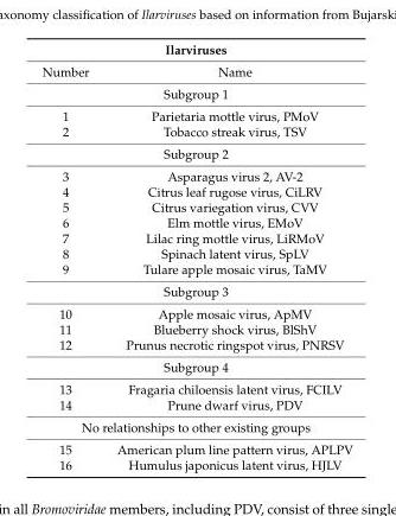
<table><thead><tr><td colspan="2">Ilarviruses</td></tr><tr><td>Number</td><td>Name</td></tr></thead><tbody><tr><td colspan="2">Subgroup 1</td></tr><tr><td>1</td><td>Parietaria mottle virus, PMoV</td></tr><tr><td>2</td><td>Tobacco streak virus, TSV</td></tr><tr><td colspan="2">Subgroup 2</td></tr><tr><td>3</td><td>Asparagus virus 2, AV-2</td></tr><tr><td>4</td><td>Citrus leaf rugose virus, CiLRV</td></tr><tr><td>5</td><td>Citrus variegation virus, CVV</td></tr><tr><td>6</td><td>Elm mottle virus, EMoV</td></tr><tr><td>7</td><td>Lilac ring mottle virus, LiRMoV</td></tr><tr><td>8</td><td>Spinach latent virus, SpLV</td></tr><tr><td>9</td><td>Tulare apple mosaic virus, TaMV</td></tr><tr><td colspan="2">Subgroup 3</td></tr><tr><td>10</td><td>Apple mosaic virus, ApMV</td></tr><tr><td>11</td><td>Blueberry shock virus, BlShV</td></tr><tr><td>12</td><td>Prunus necrotic ringspot virus, PNRSV</td></tr><tr><td colspan="2">Subgroup 4</td></tr><tr><td>13</td><td>Fragaria chiloensis latent virus, FCILV</td></tr><tr><td>14</td><td>Prune dwarf virus, PDV</td></tr><tr><td colspan="2">No relationships to other existing groups</td></tr><tr><td>15</td><td>American plum line pattern virus, APLPV</td></tr><tr><td>16</td><td>Humulus japonicus latent virus, HJLV</td></tr></tbody></table>